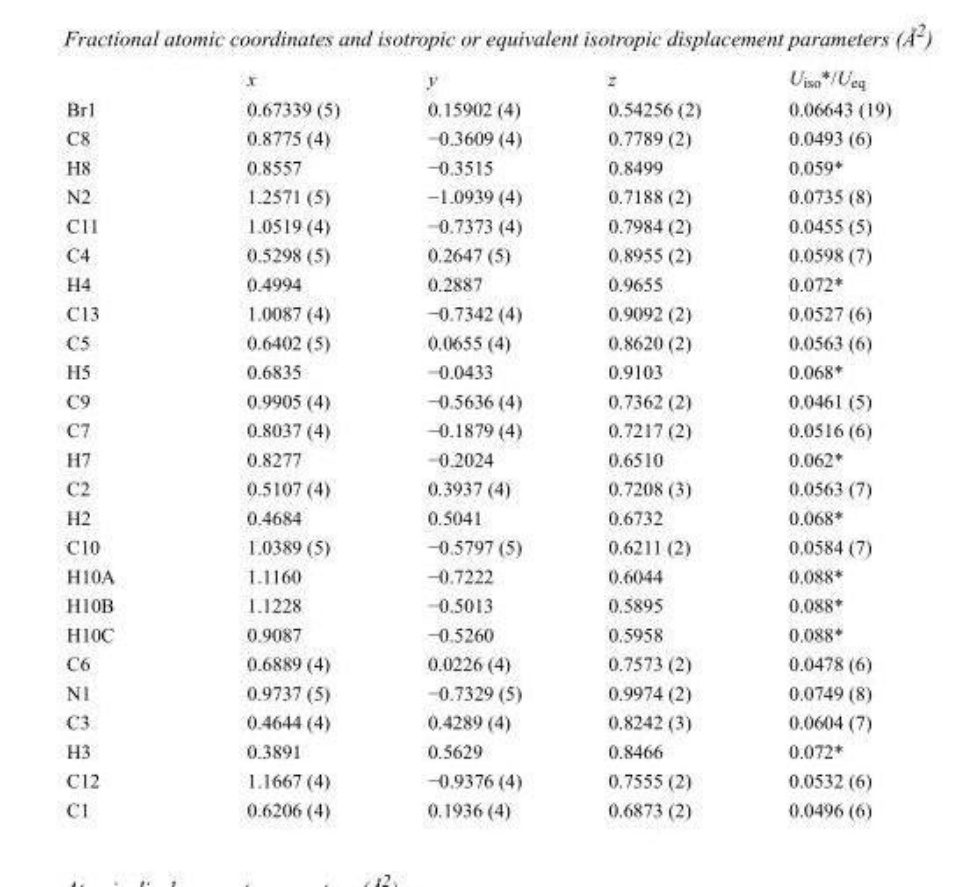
<table><thead><tr><td></td><td>x</td><td>y</td><td>z</td><td>U<sub>iso</sub>*/U<sub>eq</sub></td></tr></thead><tbody><tr><td>Br1</td><td>0.67339 (5)</td><td>0.15902 (4)</td><td>0.54256 (2)</td><td>0.06643 (19)</td></tr><tr><td>C8</td><td>0.8775 (4)</td><td>−0.3609 (4)</td><td>0.7789 (2)</td><td>0.0493 (6)</td></tr><tr><td>H8</td><td>0.8557</td><td>−0.3515</td><td>0.8499</td><td>0.059*</td></tr><tr><td>N2</td><td>1.2571 (5)</td><td>−1.0939 (4)</td><td>0.7188 (2)</td><td>0.0735 (8)</td></tr><tr><td>C11</td><td>1.0519 (4)</td><td>−0.7373 (4)</td><td>0.7984 (2)</td><td>0.0455 (5)</td></tr><tr><td>C4</td><td>0.5298 (5)</td><td>0.2647 (5)</td><td>0.8955 (2)</td><td>0.0598 (7)</td></tr><tr><td>H4</td><td>0.4994</td><td>0.2887</td><td>0.9655</td><td>0.072*</td></tr><tr><td>C13</td><td>1.0087 (4)</td><td>−0.7342 (4)</td><td>0.9092 (2)</td><td>0.0527 (6)</td></tr><tr><td>C5</td><td>0.6402 (5)</td><td>0.0655 (4)</td><td>0.8620 (2)</td><td>0.0563 (6)</td></tr><tr><td>H5</td><td>0.6835</td><td>−0.0433</td><td>0.9103</td><td>0.068*</td></tr><tr><td>C9</td><td>0.9905 (4)</td><td>−0.5636 (4)</td><td>0.7362 (2)</td><td>0.0461 (5)</td></tr><tr><td>C7</td><td>0.8037 (4)</td><td>−0.1879 (4)</td><td>0.7217 (2)</td><td>0.0516 (6)</td></tr><tr><td>H7</td><td>0.8277</td><td>−0.2024</td><td>0.6510</td><td>0.062*</td></tr><tr><td>C2</td><td>0.5107 (4)</td><td>0.3937 (4)</td><td>0.7208 (3)</td><td>0.0563 (7)</td></tr><tr><td>H2</td><td>0.4684</td><td>0.5041</td><td>0.6732</td><td>0.068*</td></tr><tr><td>C10</td><td>1.0389 (5)</td><td>−0.5797 (5)</td><td>0.6211 (2)</td><td>0.0584 (7)</td></tr><tr><td>H10A</td><td>1.1160</td><td>−0.7222</td><td>0.6044</td><td>0.088*</td></tr><tr><td>H10B</td><td>1.1228</td><td>−0.5013</td><td>0.5895</td><td>0.088*</td></tr><tr><td>H10C</td><td>0.9087</td><td>−0.5260</td><td>0.5958</td><td>0.088*</td></tr><tr><td>C6</td><td>0.6889 (4)</td><td>0.0226 (4)</td><td>0.7573 (2)</td><td>0.0478 (6)</td></tr><tr><td>N1</td><td>0.9737 (5)</td><td>−0.7329 (5)</td><td>0.9974 (2)</td><td>0.0749 (8)</td></tr><tr><td>C3</td><td>0.4644 (4)</td><td>0.4289 (4)</td><td>0.8242 (3)</td><td>0.0604 (7)</td></tr><tr><td>H3</td><td>0.3891</td><td>0.5629</td><td>0.8466</td><td>0.072*</td></tr><tr><td>C12</td><td>1.1667 (4)</td><td>−0.9376 (4)</td><td>0.7555 (2)</td><td>0.0532 (6)</td></tr><tr><td>C1</td><td>0.6206 (4)</td><td>0.1936 (4)</td><td>0.6873 (2)</td><td>0.0496 (6)</td></tr></tbody></table>